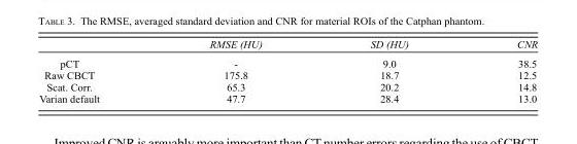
<table><thead><tr><td></td><td>RMSE (HU)</td><td>SD (HU)</td><td>CNR</td></tr></thead><tbody><tr><td>pCT</td><td>-</td><td>9.0</td><td>38.5</td></tr><tr><td>Raw CBCT</td><td>175.8</td><td>18.7</td><td>12.5</td></tr><tr><td>Scat. Corr.</td><td>65.3</td><td>20.2</td><td>14.8</td></tr><tr><td>Varian default</td><td>47.7</td><td>28.4</td><td>13.0</td></tr></tbody></table>